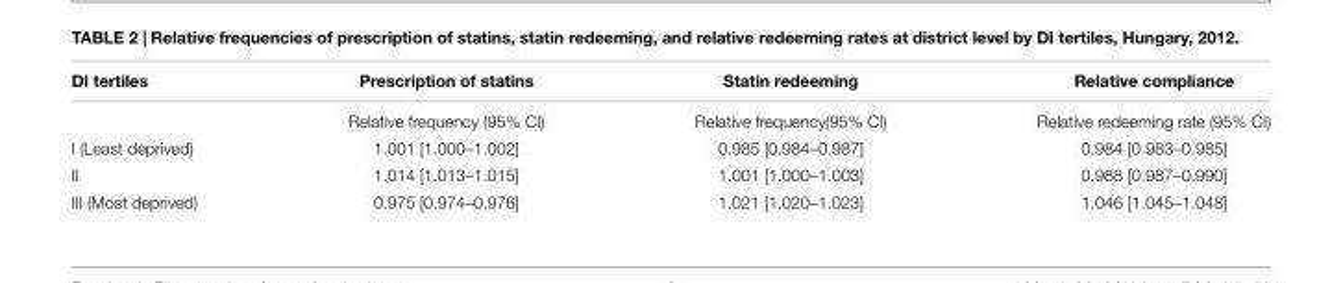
<table><thead><tr><td>DI tertiles</td><td>Prescription of statins</td><td>Statin redeeming</td><td>Relative compliance</td></tr></thead><tbody><tr><td></td><td>Relative frequency (95% CI)</td><td>Relative frequency(95% CI)</td><td>Relative redeeming rate (95% CI)</td></tr><tr><td>I (Least deprived)</td><td>1.001 [1.000–1.002]</td><td>0.985 [0.984–0.987]</td><td>0.984 [0.983–0.985]</td></tr><tr><td>II</td><td>1.014 [1.013–1.015]</td><td>1.001 [1.000–1.003]</td><td>0.988 [0.987–0.990]</td></tr><tr><td>III (Most deprived)</td><td>0.975 [0.974–0.976]</td><td>1.021 [1.020–1.023]</td><td>1.046 [1.045–1.048]</td></tr></tbody></table>